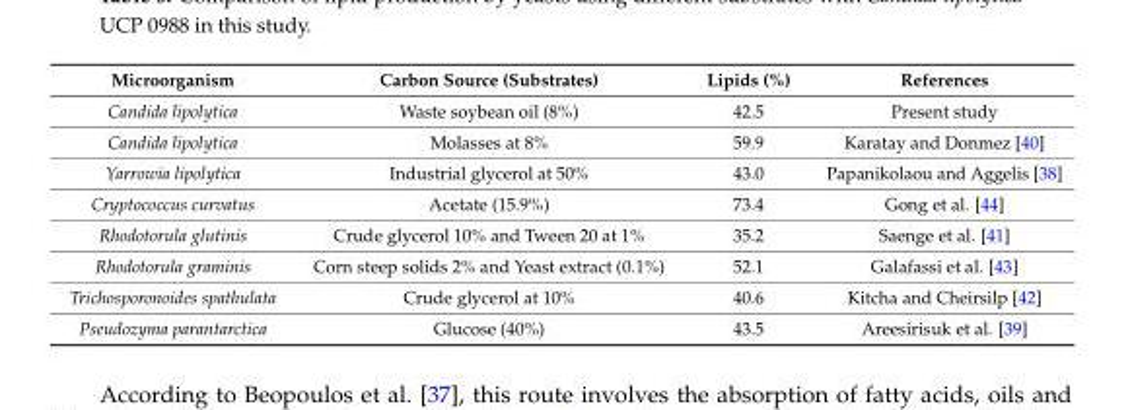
<table><thead><tr><td>Microorganism</td><td>Carbon Source (Substrates)</td><td>Lipids (%)</td><td>References</td></tr></thead><tbody><tr><td>Candida lipolytica</td><td>Waste soybean oil (8%)</td><td>42.5</td><td>Present study</td></tr><tr><td>Candida lipolytica</td><td>Molasses at 8%</td><td>59.9</td><td>Karatay and Donmez [40]</td></tr><tr><td>Yarrowia lipolytica</td><td>Industrial glycerol at 50%</td><td>43.0</td><td>Papanikolaou and Aggelis [38]</td></tr><tr><td>Cryptococcus curvatus</td><td>Acetate (15.9%)</td><td>73.4</td><td>Gong et al. [44]</td></tr><tr><td>Rhodotorula glutinis</td><td>Crude glycerol 10% and Tween 20 at 1%</td><td>35.2</td><td>Saenge et al. [41]</td></tr><tr><td>Rhodotorula graminis</td><td>Corn steep solids 2% and Yeast extract (0.1%)</td><td>52.1</td><td>Galafassi et al. [43]</td></tr><tr><td>Trichosporonoides spathulata</td><td>Crude glycerol at 10%</td><td>40.6</td><td>Kitcha and Cheirsilp [42]</td></tr><tr><td>Pseudozyma parantarctica</td><td>Glucose (40%)</td><td>43.5</td><td>Areesirisuk et al. [39]</td></tr></tbody></table>